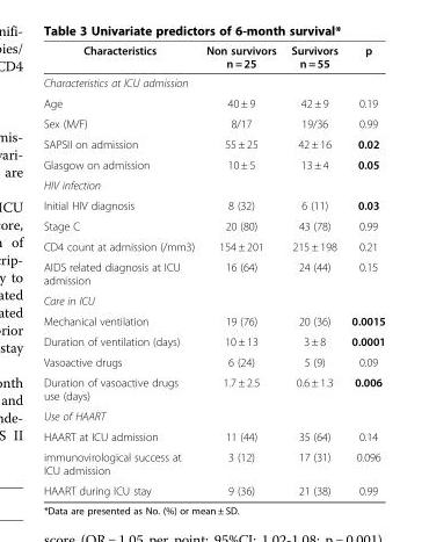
<table><thead><tr><td>Characteristics</td><td>Non survivors n = 25</td><td>Survivors n = 55</td><td>p</td></tr></thead><tbody><tr><td colspan="4">Characteristics at ICU admission</td></tr><tr><td>Age</td><td>40 ± 9</td><td>42 ± 9</td><td>0.19</td></tr><tr><td>Sex (M/F)</td><td>8/17</td><td>19/36</td><td>0.99</td></tr><tr><td>SAPSII on admission</td><td>55 ± 25</td><td>42 ± 16</td><td>0.02</td></tr><tr><td>Glasgow on admission</td><td>10 ± 5</td><td>13 ± 4</td><td>0.05</td></tr><tr><td colspan="4">HIV infection</td></tr><tr><td>Initial HIV diagnosis</td><td>8 (32)</td><td>6 (11)</td><td>0.03</td></tr><tr><td>Stage C</td><td>20 (80)</td><td>43 (78)</td><td>0.99</td></tr><tr><td>CD4 count at admission (/mm3)</td><td>154 ± 201</td><td>215 ± 198</td><td>0.21</td></tr><tr><td>AIDS related diagnosis at ICU admission</td><td>16 (64)</td><td>24 (44)</td><td>0.15</td></tr><tr><td colspan="4">Care in ICU</td></tr><tr><td>Mechanical ventilation</td><td>19 (76)</td><td>20 (36)</td><td>0.0015</td></tr><tr><td>Duration of ventilation (days)</td><td>10 ± 13</td><td>3 ± 8</td><td>0.0001</td></tr><tr><td>Vasoactive drugs</td><td>6 (24)</td><td>5 (9)</td><td>0.09</td></tr><tr><td>Duration of vasoactive drugs use (days)</td><td>1.7 ± 2.5</td><td>0.6 ± 1.3</td><td>0.006</td></tr><tr><td colspan="4">Use of HAART</td></tr><tr><td>HAART at ICU admission</td><td>11 (44)</td><td>35 (64)</td><td>0.14</td></tr><tr><td>immunovirological success at ICU admission</td><td>3 (12)</td><td>17 (31)</td><td>0.096</td></tr><tr><td>HAART during ICU stay</td><td>9 (36)</td><td>21 (38)</td><td>0.99</td></tr></tbody></table>